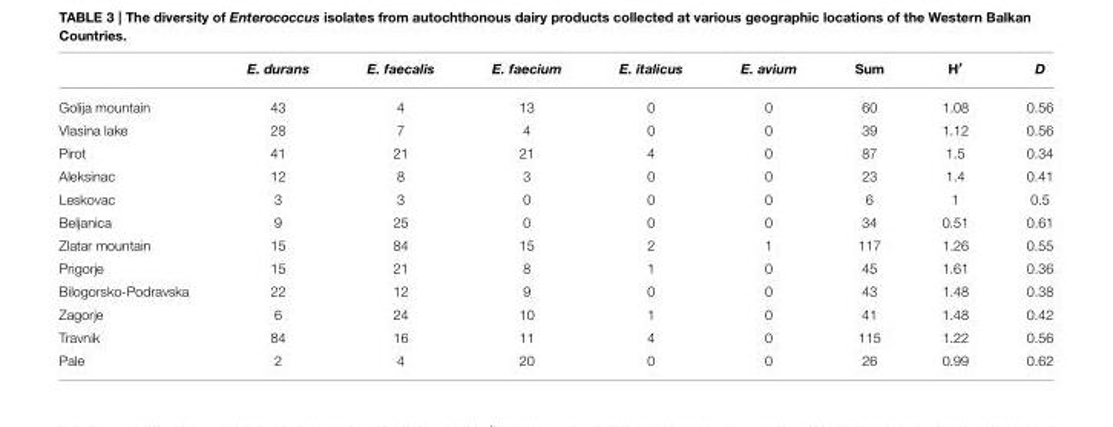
<table><thead><tr><td></td><td>E. durans</td><td>E. faecalis</td><td>E. faecium</td><td>E. italicus</td><td>E. avium</td><td>Sum</td><td>H′</td><td>D</td></tr></thead><tbody><tr><td>Golija mountain</td><td>43</td><td>4</td><td>13</td><td>0</td><td>0</td><td>60</td><td>1.08</td><td>0.56</td></tr><tr><td>Vlasina lake</td><td>28</td><td>7</td><td>4</td><td>0</td><td>0</td><td>39</td><td>1.12</td><td>0.56</td></tr><tr><td>Pirot</td><td>41</td><td>21</td><td>21</td><td>4</td><td>0</td><td>87</td><td>1.5</td><td>0.34</td></tr><tr><td>Aleksinac</td><td>12</td><td>8</td><td>3</td><td>0</td><td>0</td><td>23</td><td>1.4</td><td>0.41</td></tr><tr><td>Leskovac</td><td>3</td><td>3</td><td>0</td><td>0</td><td>0</td><td>6</td><td>1</td><td>0.5</td></tr><tr><td>Beljanica</td><td>9</td><td>25</td><td>0</td><td>0</td><td>0</td><td>34</td><td>0.51</td><td>0.61</td></tr><tr><td>Zlatar mountain</td><td>15</td><td>84</td><td>15</td><td>2</td><td>1</td><td>117</td><td>1.26</td><td>0.55</td></tr><tr><td>Prigorje</td><td>15</td><td>21</td><td>8</td><td>1</td><td>0</td><td>45</td><td>1.61</td><td>0.36</td></tr><tr><td>Bilogorsko-Podravska</td><td>22</td><td>12</td><td>9</td><td>0</td><td>0</td><td>43</td><td>1.48</td><td>0.38</td></tr><tr><td>Zagorje</td><td>6</td><td>24</td><td>10</td><td>1</td><td>0</td><td>41</td><td>1.48</td><td>0.42</td></tr><tr><td>Travnik</td><td>84</td><td>16</td><td>11</td><td>4</td><td>0</td><td>115</td><td>1.22</td><td>0.56</td></tr><tr><td>Pale</td><td>2</td><td>4</td><td>20</td><td>0</td><td>0</td><td>26</td><td>0.99</td><td>0.62</td></tr></tbody></table>